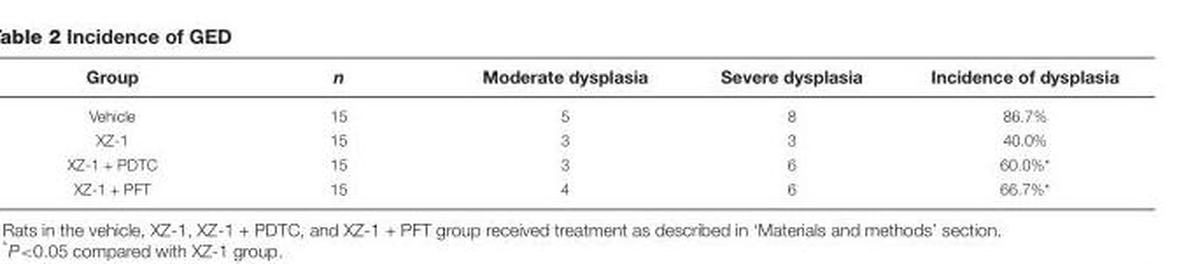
<table><thead><tr><td>Group</td><td>n</td><td>Moderate dysplasia</td><td>Severe dysplasia</td><td>Incidence of dysplasia</td></tr></thead><tbody><tr><td>Vehicle</td><td>15</td><td>5</td><td>8</td><td>86.7%</td></tr><tr><td>XZ-1</td><td>15</td><td>3</td><td>3</td><td>40.0%</td></tr><tr><td>XZ-1 + PDTC</td><td>15</td><td>3</td><td>6</td><td>60.0%*</td></tr><tr><td>XZ-1 + PFT</td><td>15</td><td>4</td><td>6</td><td>66.7%*</td></tr></tbody></table>